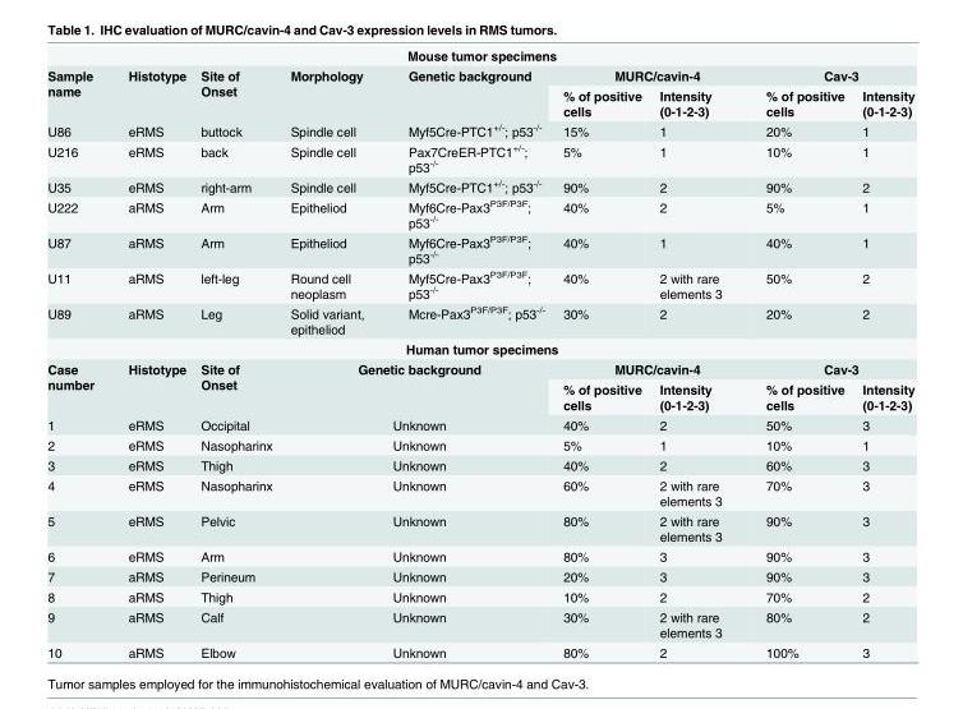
<table><tbody><tr><td colspan="9">Mouse tumor specimens</td></tr><tr><td rowspan="2">Sample name</td><td rowspan="2">Histotype</td><td rowspan="2">Site of Onset</td><td rowspan="2">Morphology</td><td rowspan="2">Genetic background</td><td colspan="2">MURC/cavin-4</td><td colspan="2">Cav-3</td></tr><tr><td>% of positive cells</td><td>Intensity (0-1-2-3)</td><td>% of positive cells</td><td>Intensity (0-1-2-3)</td></tr><tr><td>U86</td><td>eRMS</td><td>buttock</td><td>Spindle cell</td><td>Myf5Cre-PTC1<sup>+/-</sup>; p53<sup>-/-</sup></td><td>15%</td><td>1</td><td>20%</td><td>1</td></tr><tr><td>U216</td><td>eRMS</td><td>back</td><td>Spindle cell</td><td>Pax7CreER-PTC1<sup>+/-</sup>; p53<sup>-/-</sup></td><td>5%</td><td>1</td><td>10%</td><td>1</td></tr><tr><td>U35</td><td>eRMS</td><td>right-arm</td><td>Spindle cell</td><td>Myf5Cre-PTC1<sup>+/-</sup>; p53<sup>-/-</sup></td><td>90%</td><td>2</td><td>90%</td><td>2</td></tr><tr><td>U222</td><td>aRMS</td><td>Arm</td><td>Epitheliod</td><td>Myf6Cre-Pax3<sup>P3F/P3F</sup>; p53<sup>-/-</sup></td><td>40%</td><td>2</td><td>5%</td><td>1</td></tr><tr><td>U87</td><td>aRMS</td><td>Arm</td><td>Epitheliod</td><td>Myf6Cre-Pax3<sup>P3F/P3F</sup>; p53<sup>-/-</sup></td><td>40%</td><td>1</td><td>40%</td><td>1</td></tr><tr><td>U11</td><td>aRMS</td><td>left-leg</td><td>Round cell neoplasm</td><td>Myf5Cre-Pax3<sup>P3F/P3F</sup>; p53<sup>-/-</sup></td><td>40%</td><td>2 with rare elements 3</td><td>50%</td><td>2</td></tr><tr><td>U89</td><td>aRMS</td><td>Leg</td><td>Solid variant, epitheliod</td><td>Mcre-Pax3<sup>P3F/P3F</sup>; p53<sup>-/-</sup></td><td>30%</td><td>2</td><td>20%</td><td>2</td></tr><tr><td colspan="9">Human tumor specimens</td></tr><tr><td rowspan="2">Case number</td><td rowspan="2">Histotype</td><td rowspan="2">Site of Onset</td><td rowspan="2" colspan="2">Genetic background</td><td colspan="2">MURC/cavin-4</td><td colspan="2">Cav-3</td></tr><tr><td>% of positive cells</td><td>Intensity (0-1-2-3)</td><td>% of positive cells</td><td>Intensity (0-1-2-3)</td></tr><tr><td>1</td><td>eRMS</td><td>Occipital</td><td colspan="2">Unknown</td><td>40%</td><td>2</td><td>50%</td><td>3</td></tr><tr><td>2</td><td>eRMS</td><td>Nasopharinx</td><td colspan="2">Unknown</td><td>5%</td><td>1</td><td>10%</td><td>1</td></tr><tr><td>3</td><td>eRMS</td><td>Thigh</td><td colspan="2">Unknown</td><td>40%</td><td>2</td><td>60%</td><td>3</td></tr><tr><td>4</td><td>eRMS</td><td>Nasopharinx</td><td colspan="2">Unknown</td><td>60%</td><td>2 with rare elements 3</td><td>70%</td><td>3</td></tr><tr><td>5</td><td>eRMS</td><td>Pelvic</td><td colspan="2">Unknown</td><td>80%</td><td>2 with rare elements 3</td><td>90%</td><td>3</td></tr><tr><td>6</td><td>eRMS</td><td>Arm</td><td colspan="2">Unknown</td><td>80%</td><td>3</td><td>90%</td><td>3</td></tr><tr><td>7</td><td>aRMS</td><td>Perineum</td><td colspan="2">Unknown</td><td>20%</td><td>3</td><td>90%</td><td>3</td></tr><tr><td>8</td><td>aRMS</td><td>Thigh</td><td colspan="2">Unknown</td><td>10%</td><td>2</td><td>70%</td><td>2</td></tr><tr><td>9</td><td>aRMS</td><td>Calf</td><td colspan="2">Unknown</td><td>30%</td><td>2 with rare elements 3</td><td>80%</td><td>2</td></tr><tr><td>10</td><td>aRMS</td><td>Elbow</td><td colspan="2">Unknown</td><td>80%</td><td>2</td><td>100%</td><td>3</td></tr></tbody></table>